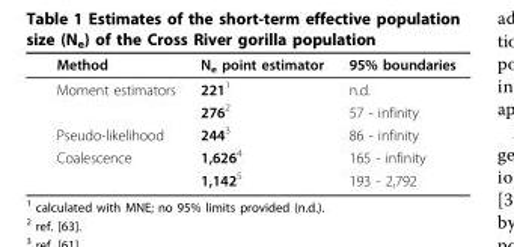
<table><thead><tr><td>Method</td><td>N<sub>e</sub> point estimator</td><td>95% boundaries</td></tr></thead><tbody><tr><td rowspan="2">Moment estimators</td><td>221<sup>1</sup></td><td>n.d.</td></tr><tr><td>276<sup>2</sup></td><td>57 - infinity</td></tr><tr><td>Pseudo-likelihood</td><td>244<sup>3</sup></td><td>86 - infinity</td></tr><tr><td rowspan="2">Coalescence</td><td>1,626<sup>4</sup></td><td>165 - infinity</td></tr><tr><td>1,142<sup>5</sup></td><td>193 - 2,792</td></tr></tbody></table>